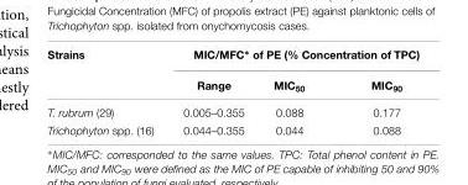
<table><thead><tr><td rowspan="2">Strains</td><td colspan="3">MIC/MFC∗ of PE (% Concentration of TPC)</td></tr><tr><td>Range</td><td>MIC<sub>50</sub></td><td>MIC<sub>90</sub></td></tr></thead><tbody><tr><td>T. rubrum (29)</td><td>0.005–0.355</td><td>0.088</td><td>0.177</td></tr><tr><td>Trichophyton spp. (16)</td><td>0.044–0.355</td><td>0.044</td><td>0.088</td></tr></tbody></table>